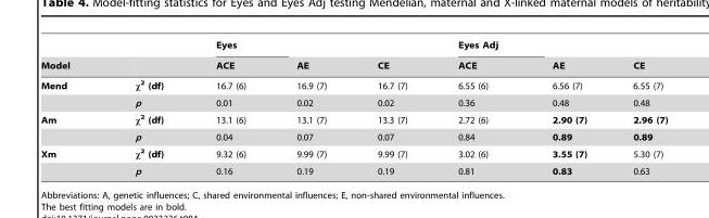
<table><thead><tr><td rowspan="2">Model</td><td rowspan="2"></td><td rowspan="2">Eyes ACE</td><td rowspan="2">AE</td><td rowspan="2">CE</td><td rowspan="2">Eyes Adj ACE</td><td rowspan="2">AE</td><td rowspan="2">CE</td></tr><tr></tr></thead><tbody><tr><td rowspan="2">Mend</td><td>χ<sup>2</sup> (df)</td><td>16.7 (6)</td><td>16.9 (7)</td><td>16.7 (7)</td><td>6.55 (6)</td><td>6.56 (7)</td><td>6.55 (7)</td></tr><tr><td>p</td><td>0.01</td><td>0.02</td><td>0.02</td><td>0.36</td><td>0.48</td><td>0.48</td></tr><tr><td rowspan="2">Am</td><td>χ<sup>2</sup> (df)</td><td>13.1 (6)</td><td>13.1 (7)</td><td>13.3 (7)</td><td>2.72 (6)</td><td>2.90 (7)</td><td>2.96 (7)</td></tr><tr><td>p</td><td>0.04</td><td>0.07</td><td>0.07</td><td>0.84</td><td>0.89</td><td>0.89</td></tr><tr><td rowspan="2">Xm</td><td>χ<sup>2</sup> (df)</td><td>9.32 (6)</td><td>9.99 (7)</td><td>9.99 (7)</td><td>3.02 (6)</td><td>3.55 (7)</td><td>5.30 (7)</td></tr><tr><td>p</td><td>0.16</td><td>0.19</td><td>0.19</td><td>0.81</td><td>0.83</td><td>0.63</td></tr></tbody></table>